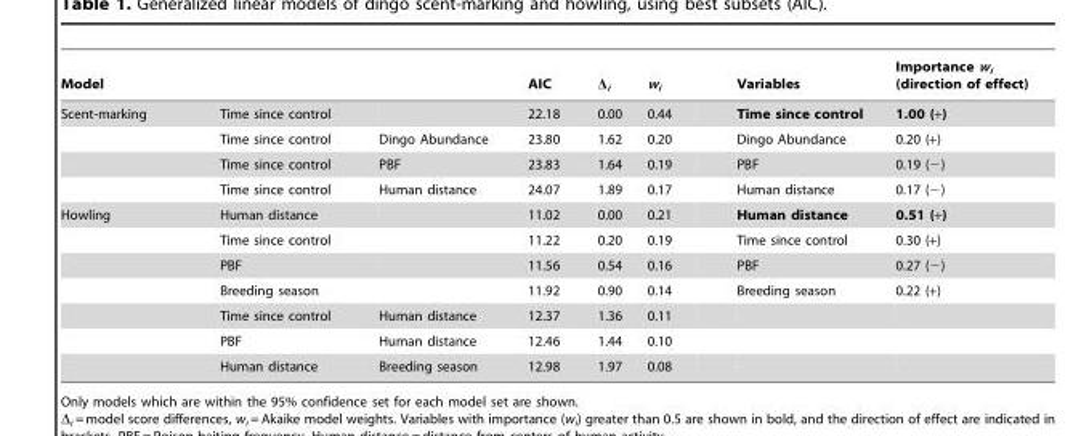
<table><thead><tr><td>Model</td><td></td><td></td><td>AIC</td><td>Δ<sub>i</sub></td><td>w<sub>i</sub></td><td>Variables</td><td>Importance w<sub>i</sub> (direction of effect)</td></tr></thead><tbody><tr><td rowspan="4">Scent-marking</td><td>Time since control</td><td></td><td>22.18</td><td>0.00</td><td>0.44</td><td>Time since control</td><td>1.00 (+)</td></tr><tr><td>Time since control</td><td>Dingo Abundance</td><td>23.80</td><td>1.62</td><td>0.20</td><td>Dingo Abundance</td><td>0.20 (+)</td></tr><tr><td>Time since control</td><td>PBF</td><td>23.83</td><td>1.64</td><td>0.19</td><td>PBF</td><td>0.19 (−)</td></tr><tr><td>Time since control</td><td>Human distance</td><td>24.07</td><td>1.89</td><td>0.17</td><td>Human distance</td><td>0.17 (−)</td></tr><tr><td rowspan="7">Howling</td><td>Human distance</td><td></td><td>11.02</td><td>0.00</td><td>0.21</td><td>Human distance</td><td>0.51 (+)</td></tr><tr><td>Time since control</td><td></td><td>11.22</td><td>0.20</td><td>0.19</td><td>Time since control</td><td>0.30 (+)</td></tr><tr><td>PBF</td><td></td><td>11.56</td><td>0.54</td><td>0.16</td><td>PBF</td><td>0.27 (−)</td></tr><tr><td>Breeding season</td><td></td><td>11.92</td><td>0.90</td><td>0.14</td><td>Breeding season</td><td>0.22 (+)</td></tr><tr><td>Time since control</td><td>Human distance</td><td>12.37</td><td>1.36</td><td>0.11</td><td></td><td></td></tr><tr><td>PBF</td><td>Human distance</td><td>12.46</td><td>1.44</td><td>0.10</td><td></td><td></td></tr><tr><td>Human distance</td><td>Breeding season</td><td>12.98</td><td>1.97</td><td>0.08</td><td></td><td></td></tr></tbody></table>